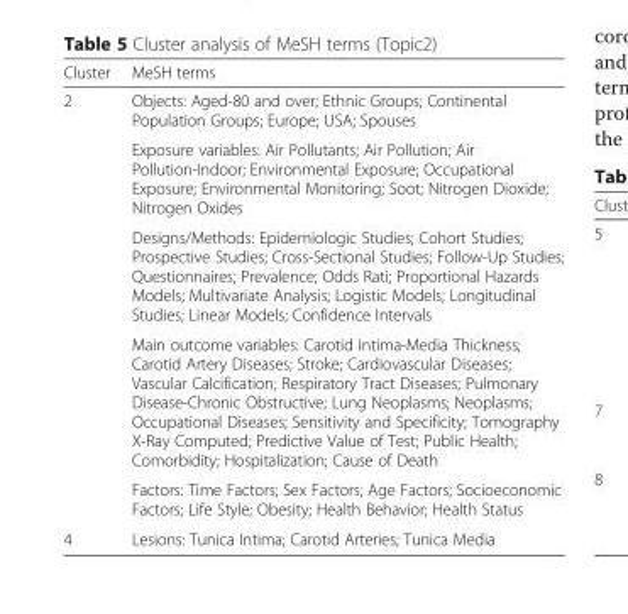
<table><thead><tr><td>Cluster</td><td>MeSH terms</td></tr></thead><tbody><tr><td rowspan="5">2</td><td>Objects: Aged-80 and over; Ethnic Groups; Continental Population Groups; Europe; USA; Spouses</td></tr><tr><td>Exposure variables: Air Pollutants; Air Pollution; Air Pollution-Indoor; Environmental Exposure; Occupational Exposure; Environmental Monitoring; Soot; Nitrogen Dioxide; Nitrogen Oxides</td></tr><tr><td>Designs/Methods: Epidemiologic Studies; Cohort Studies; Prospective Studies; Cross-Sectional Studies; Follow-Up Studies; Questionnaires; Prevalence; Odds Rati; Proportional Hazards Models; Multivariate Analysis; Logistic Models; Longitudinal Studies; Linear Models; Confidence Intervals</td></tr><tr><td>Main outcome variables: Carotid Intima-Media Thickness; Carotid Artery Diseases; Stroke; Cardiovascular Diseases; Vascular Calcification; Respiratory Tract Diseases; Pulmonary Disease-Chronic Obstructive; Lung Neoplasms; Neoplasms; Occupational Diseases; Sensitivity and Specificity; Tomography X-Ray Computed; Predictive Value of Test; Public Health; Comorbidity; Hospitalization; Cause of Death</td></tr><tr><td>Factors: Time Factors; Sex Factors; Age Factors; Socioeconomic Factors; Life Style; Obesity; Health Behavior; Health Status</td></tr><tr><td>4</td><td>Lesions: Tunica Intima; Carotid Arteries; Tunica Media</td></tr></tbody></table>